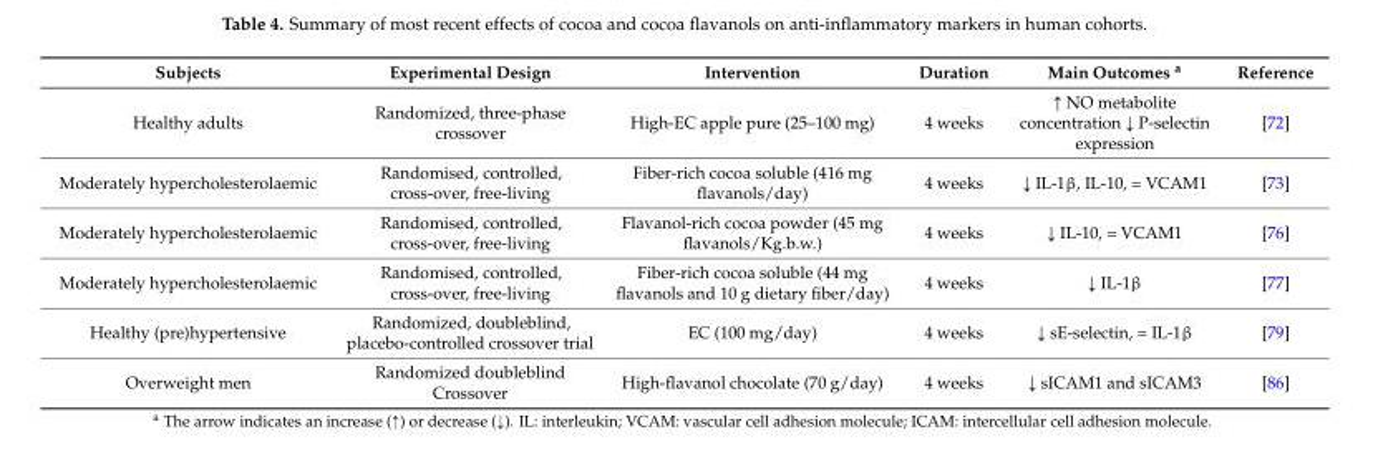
<table><thead><tr><td>Subjects</td><td>Experimental Design</td><td>Intervention</td><td>Duration</td><td>Main Outcomes <sup>a</sup></td><td>Reference</td></tr></thead><tbody><tr><td>Healthy adults</td><td>Randomized, three-phase crossover</td><td>High-EC apple pure (25–100 mg)</td><td>4 weeks</td><td>↑ NO metabolite concentration ↓ P-selectin expression</td><td>[72]</td></tr><tr><td>Moderately hypercholesterolaemic</td><td>Randomised, controlled, cross-over, free-living</td><td>Fiber-rich cocoa soluble (416 mg flavanols/day)</td><td>4 weeks</td><td>↓ IL-1β, IL-10, = VCAM1</td><td>[73]</td></tr><tr><td>Moderately hypercholesterolaemic</td><td>Randomised, controlled, cross-over, free-living</td><td>Flavanol-rich cocoa powder (45 mg flavanols/Kg.b.w.)</td><td>4 weeks</td><td>↓ IL-10, = VCAM1</td><td>[76]</td></tr><tr><td>Moderately hypercholesterolaemic</td><td>Randomised, controlled, cross-over, free-living</td><td>Fiber-rich cocoa soluble (44 mg flavanols and 10 g dietary fiber/day)</td><td>4 weeks</td><td>↓ IL-1β</td><td>[77]</td></tr><tr><td>Healthy (pre)hypertensive</td><td>Randomized, doubleblind, placebo-controlled crossover trial</td><td>EC (100 mg/day)</td><td>4 weeks</td><td>↓ sE-selectin, = IL-1β</td><td>[79]</td></tr><tr><td>Overweight men</td><td>Randomized doubleblind Crossover</td><td>High-flavanol chocolate (70 g/day)</td><td>4 weeks</td><td>↓ sICAM1 and sICAM3</td><td>[86]</td></tr></tbody></table>